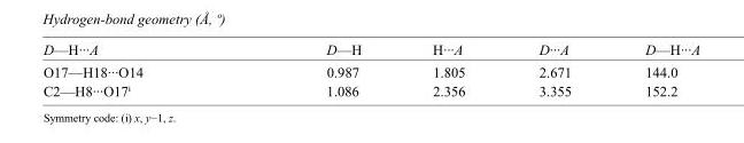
<table><tbody><tr><td>D—H···A</td><td>D—H</td><td>H···A</td><td>D···A</td><td>D—H···A</td></tr><tr><td>O17—H18···O14</td><td>0.987</td><td>1.805</td><td>2.671</td><td>144.0</td></tr><tr><td>C2—H8···O17<sup>i</sup></td><td>1.086</td><td>2.356</td><td>3.355</td><td>152.2</td></tr></tbody></table>